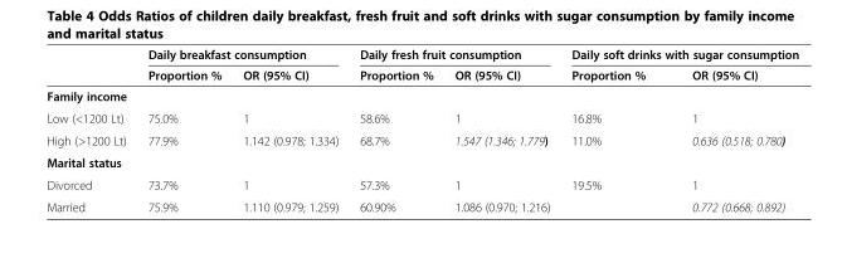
<table><thead><tr><td rowspan="2"></td><td colspan="2">Daily breakfast consumption</td><td colspan="2">Daily fresh fruit consumption</td><td colspan="2">Daily soft drinks with sugar consumption</td></tr><tr><td>Proportion %</td><td>OR (95% CI)</td><td>Proportion %</td><td>OR (95% CI)</td><td>Proportion %</td><td>OR (95% CI)</td></tr></thead><tbody><tr><td colspan="7">Family income</td></tr><tr><td>Low (&lt;1200 Lt)</td><td>75.0%</td><td>1</td><td>58.6%</td><td>1</td><td>16.8%</td><td>1</td></tr><tr><td>High (&gt;1200 Lt)</td><td>77.9%</td><td>1.142 (0.978; 1.334)</td><td>68.7%</td><td>1.547 (1.346; 1.779)</td><td>11.0%</td><td>0.636 (0.518; 0.780)</td></tr><tr><td colspan="7">Marital status</td></tr><tr><td>Divorced</td><td>73.7%</td><td>1</td><td>57.3%</td><td>1</td><td>19.5%</td><td>1</td></tr><tr><td>Married</td><td>75.9%</td><td>1.110 (0.979; 1.259)</td><td>60.90%</td><td>1.086 (0.970; 1.216)</td><td></td><td>0.772 (0.668; 0.892)</td></tr></tbody></table>